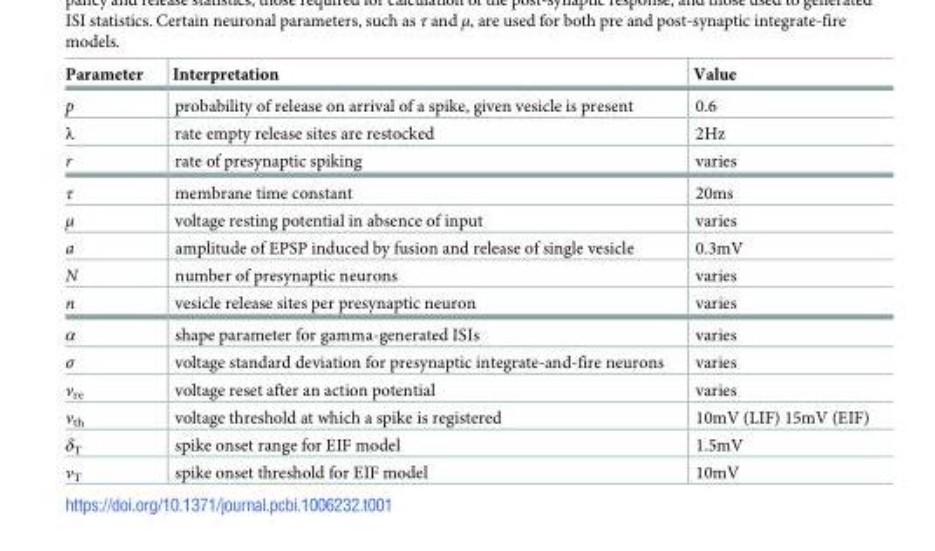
<table><thead><tr><td>Parameter</td><td>Interpretation</td><td>Value</td></tr></thead><tbody><tr><td>p</td><td>probability of release on arrival of a spike, given vesicle is present</td><td>0.6</td></tr><tr><td>λ</td><td>rate empty release sites are restocked</td><td>2Hz</td></tr><tr><td>r</td><td>rate of presynaptic spiking</td><td>varies</td></tr><tr><td>τ</td><td>membrane time constant</td><td>20ms</td></tr><tr><td>μ</td><td>voltage resting potential in absence of input</td><td>varies</td></tr><tr><td>a</td><td>amplitude of EPSP induced by fusion and release of single vesicle</td><td>0.3mV</td></tr><tr><td>N</td><td>number of presynaptic neurons</td><td>varies</td></tr><tr><td>n</td><td>vesicle release sites per presynaptic neuron</td><td>varies</td></tr><tr><td>α</td><td>shape parameter for gamma-generated ISIs</td><td>varies</td></tr><tr><td>σ</td><td>voltage standard deviation for presynaptic integrate-and-fire neurons</td><td>varies</td></tr><tr><td>v<sub>re</sub></td><td>voltage reset after an action potential</td><td>varies</td></tr><tr><td>v<sub>th</sub></td><td>voltage threshold at which a spike is registered</td><td>10mV (LIF) 15mV (EIF)</td></tr><tr><td>δ<sub>T</sub></td><td>spike onset range for EIF model</td><td>1.5mV</td></tr><tr><td>v<sub>T</sub></td><td>spike onset threshold for EIF model</td><td>10mV</td></tr></tbody></table>